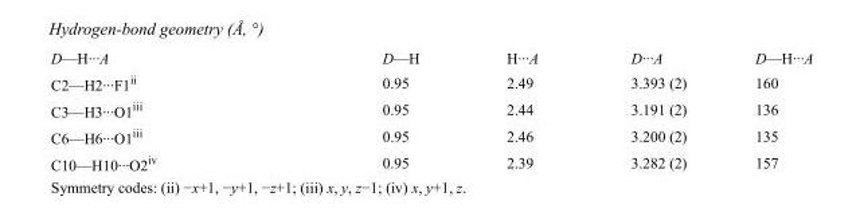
<table><tbody><tr><td>D—H···A</td><td>D—H</td><td>H···A</td><td>D···A</td><td>D—H···A</td></tr><tr><td>C2—H2···F1<sup>ii</sup></td><td>0.95</td><td>2.49</td><td>3.393 (2)</td><td>160</td></tr><tr><td>C3—H3···O1<sup>iii</sup></td><td>0.95</td><td>2.44</td><td>3.191 (2)</td><td>136</td></tr><tr><td>C6—H6···O1<sup>iii</sup></td><td>0.95</td><td>2.46</td><td>3.200 (2)</td><td>135</td></tr><tr><td>C10—H10···O2<sup>iv</sup></td><td>0.95</td><td>2.39</td><td>3.282 (2)</td><td>157</td></tr></tbody></table>